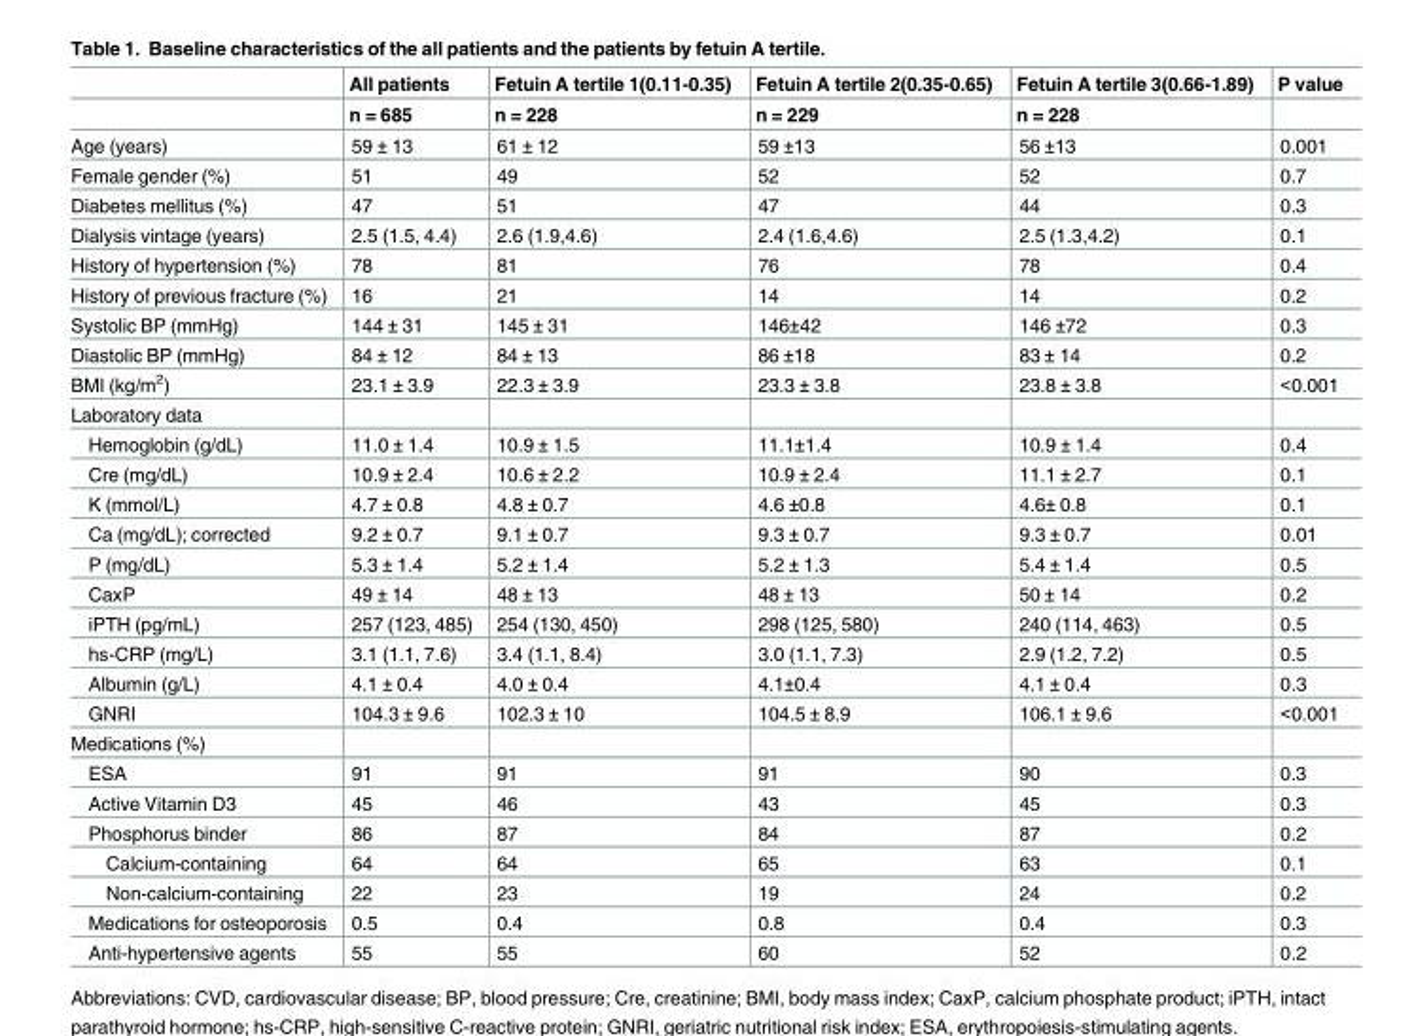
<table><thead><tr><td rowspan="2"></td><td rowspan="2">All patients n = 685</td><td rowspan="2">Fetuin A tertile 1(0.11-0.35) n = 228</td><td rowspan="2">Fetuin A tertile 2(0.35-0.65) n = 229</td><td rowspan="2">Fetuin A tertile 3(0.66-1.89) n = 228</td><td rowspan="2">P value</td></tr><tr></tr></thead><tbody><tr><td>Age (years)</td><td>59 ± 13</td><td>61 ± 12</td><td>59 ±13</td><td>56 ±13</td><td>0.001</td></tr><tr><td>Female gender (%)</td><td>51</td><td>49</td><td>52</td><td>52</td><td>0.7</td></tr><tr><td>Diabetes mellitus (%)</td><td>47</td><td>51</td><td>47</td><td>44</td><td>0.3</td></tr><tr><td>Dialysis vintage (years)</td><td>2.5 (1.5, 4.4)</td><td>2.6 (1.9,4.6)</td><td>2.4 (1.6,4.6)</td><td>2.5 (1.3,4.2)</td><td>0.1</td></tr><tr><td>History of hypertension (%)</td><td>78</td><td>81</td><td>76</td><td>78</td><td>0.4</td></tr><tr><td>History of previous fracture (%)</td><td>16</td><td>21</td><td>14</td><td>14</td><td>0.2</td></tr><tr><td>Systolic BP (mmHg)</td><td>144 ± 31</td><td>145 ± 31</td><td>146±42</td><td>146 ±72</td><td>0.3</td></tr><tr><td>Diastolic BP (mmHg)</td><td>84 ± 12</td><td>84 ± 13</td><td>86 ±18</td><td>83 ± 14</td><td>0.2</td></tr><tr><td>BMI (kg/m<sup>2</sup>)</td><td>23.1 ± 3.9</td><td>22.3 ± 3.9</td><td>23.3 ± 3.8</td><td>23.8 ± 3.8</td><td>&lt;0.001</td></tr><tr><td colspan="6">Laboratory data</td></tr><tr><td>Hemoglobin (g/dL)</td><td>11.0 ± 1.4</td><td>10.9 ± 1.5</td><td>11.1±1.4</td><td>10.9 ± 1.4</td><td>0.4</td></tr><tr><td>Cre (mg/dL)</td><td>10.9 ± 2.4</td><td>10.6 ± 2.2</td><td>10.9 ± 2.4</td><td>11.1 ± 2.7</td><td>0.1</td></tr><tr><td>K (mmol/L)</td><td>4.7 ± 0.8</td><td>4.8 ± 0.7</td><td>4.6 ±0.8</td><td>4.6± 0.8</td><td>0.1</td></tr><tr><td>Ca (mg/dL); corrected</td><td>9.2 ± 0.7</td><td>9.1 ± 0.7</td><td>9.3 ± 0.7</td><td>9.3 ± 0.7</td><td>0.01</td></tr><tr><td>P (mg/dL)</td><td>5.3 ± 1.4</td><td>5.2 ± 1.4</td><td>5.2 ± 1.3</td><td>5.4 ± 1.4</td><td>0.5</td></tr><tr><td>CaxP</td><td>49 ± 14</td><td>48 ± 13</td><td>48 ± 13</td><td>50 ± 14</td><td>0.2</td></tr><tr><td>iPTH (pg/mL)</td><td>257 (123, 485)</td><td>254 (130, 450)</td><td>298 (125, 580)</td><td>240 (114, 463)</td><td>0.5</td></tr><tr><td>hs-CRP (mg/L)</td><td>3.1 (1.1, 7.6)</td><td>3.4 (1.1, 8.4)</td><td>3.0 (1.1, 7.3)</td><td>2.9 (1.2, 7.2)</td><td>0.5</td></tr><tr><td>Albumin (g/L)</td><td>4.1 ± 0.4</td><td>4.0 ± 0.4</td><td>4.1±0.4</td><td>4.1 ± 0.4</td><td>0.3</td></tr><tr><td>GNRI</td><td>104.3 ± 9.6</td><td>102.3 ± 10</td><td>104.5 ± 8.9</td><td>106.1 ± 9.6</td><td>&lt;0.001</td></tr><tr><td colspan="6">Medications (%)</td></tr><tr><td>ESA</td><td>91</td><td>91</td><td>91</td><td>90</td><td>0.3</td></tr><tr><td>Active Vitamin D3</td><td>45</td><td>46</td><td>43</td><td>45</td><td>0.3</td></tr><tr><td>Phosphorus binder</td><td>86</td><td>87</td><td>84</td><td>87</td><td>0.2</td></tr><tr><td>Calcium-containing</td><td>64</td><td>64</td><td>65</td><td>63</td><td>0.1</td></tr><tr><td>Non-calcium-containing</td><td>22</td><td>23</td><td>19</td><td>24</td><td>0.2</td></tr><tr><td>Medications for osteoporosis</td><td>0.5</td><td>0.4</td><td>0.8</td><td>0.4</td><td>0.3</td></tr><tr><td>Anti-hypertensive agents</td><td>55</td><td>55</td><td>60</td><td>52</td><td>0.2</td></tr></tbody></table>